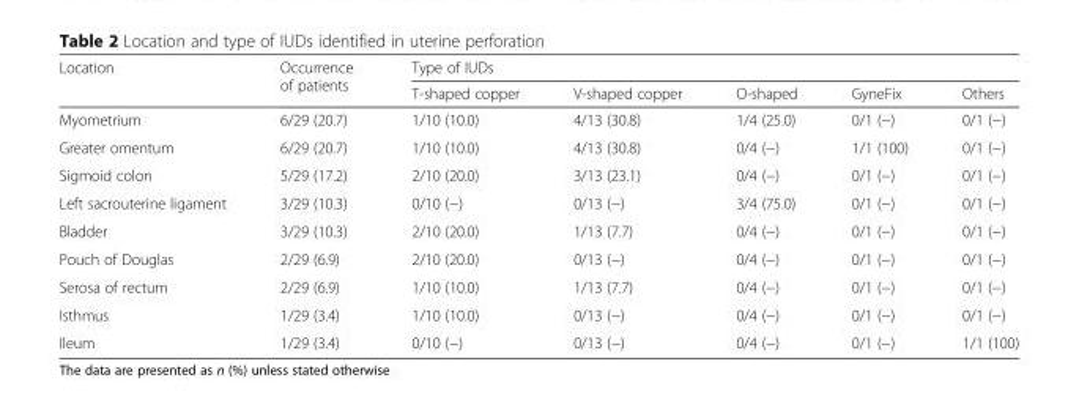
<table><thead><tr><td rowspan="2">Location</td><td rowspan="2">Occurrence of patients</td><td colspan="5">Type of IUDs</td></tr><tr><td>T-shaped copper</td><td>V-shaped copper</td><td>O-shaped</td><td>GyneFix</td><td>Others</td></tr></thead><tbody><tr><td>Myometrium</td><td>6/29 (20.7)</td><td>1/10 (10.0)</td><td>4/13 (30.8)</td><td>1/4 (25.0)</td><td>0/1 (−)</td><td>0/1 (−)</td></tr><tr><td>Greater omentum</td><td>6/29 (20.7)</td><td>1/10 (10.0)</td><td>4/13 (30.8)</td><td>0/4 (−)</td><td>1/1 (100)</td><td>0/1 (−)</td></tr><tr><td>Sigmoid colon</td><td>5/29 (17.2)</td><td>2/10 (20.0)</td><td>3/13 (23.1)</td><td>0/4 (−)</td><td>0/1 (−)</td><td>0/1 (−)</td></tr><tr><td>Left sacrouterine ligament</td><td>3/29 (10.3)</td><td>0/10 (−)</td><td>0/13 (−)</td><td>3/4 (75.0)</td><td>0/1 (−)</td><td>0/1 (−)</td></tr><tr><td>Bladder</td><td>3/29 (10.3)</td><td>2/10 (20.0)</td><td>1/13 (7.7)</td><td>0/4 (−)</td><td>0/1 (−)</td><td>0/1 (−)</td></tr><tr><td>Pouch of Douglas</td><td>2/29 (6.9)</td><td>2/10 (20.0)</td><td>0/13 (−)</td><td>0/4 (−)</td><td>0/1 (−)</td><td>0/1 (−)</td></tr><tr><td>Serosa of rectum</td><td>2/29 (6.9)</td><td>1/10 (10.0)</td><td>1/13 (7.7)</td><td>0/4 (−)</td><td>0/1 (−)</td><td>0/1 (−)</td></tr><tr><td>Isthmus</td><td>1/29 (3.4)</td><td>1/10 (10.0)</td><td>0/13 (−)</td><td>0/4 (−)</td><td>0/1 (−)</td><td>0/1 (−)</td></tr><tr><td>Ileum</td><td>1/29 (3.4)</td><td>0/10 (−)</td><td>0/13 (−)</td><td>0/4 (−)</td><td>0/1 (−)</td><td>1/1 (100)</td></tr></tbody></table>